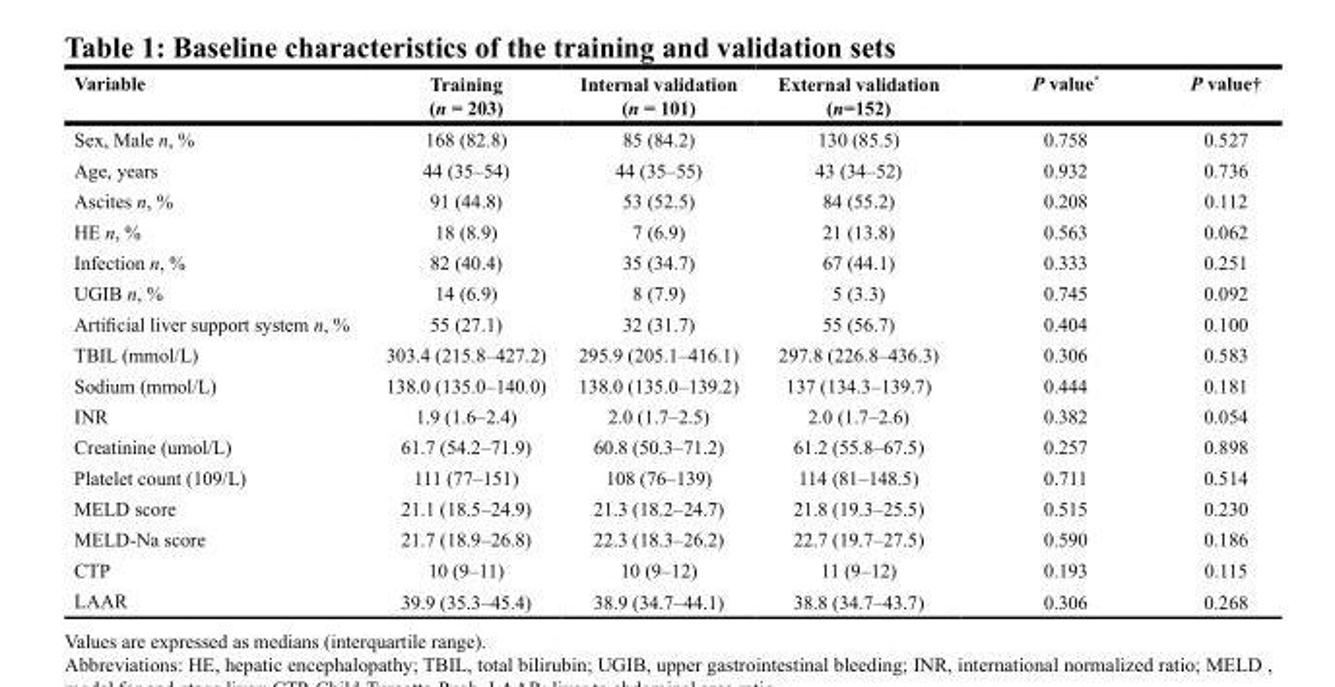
<table><thead><tr><td>Variable</td><td>Training (n = 203)</td><td>Internal validation (n = 101)</td><td>External validation (n=152)</td><td>P value*</td><td>P value†</td></tr></thead><tbody><tr><td>Sex, Male n, %</td><td>168 (82.8)</td><td>85 (84.2)</td><td>130 (85.5)</td><td>0.758</td><td>0.527</td></tr><tr><td>Age, years</td><td>44 (35–54)</td><td>44 (35–55)</td><td>43 (34–52)</td><td>0.932</td><td>0.736</td></tr><tr><td>Ascites n, %</td><td>91 (44.8)</td><td>53 (52.5)</td><td>84 (55.2)</td><td>0.208</td><td>0.112</td></tr><tr><td>HE n, %</td><td>18 (8.9)</td><td>7 (6.9)</td><td>21 (13.8)</td><td>0.563</td><td>0.062</td></tr><tr><td>Infection n, %</td><td>82 (40.4)</td><td>35 (34.7)</td><td>67 (44.1)</td><td>0.333</td><td>0.251</td></tr><tr><td>UGIB n, %</td><td>14 (6.9)</td><td>8 (7.9)</td><td>5 (3.3)</td><td>0.745</td><td>0.092</td></tr><tr><td>Artificial liver support system n, %</td><td>55 (27.1)</td><td>32 (31.7)</td><td>55 (56.7)</td><td>0.404</td><td>0.100</td></tr><tr><td>TBIL (mmol/L)</td><td>303.4 (215.8–427.2)</td><td>295.9 (205.1–416.1)</td><td>297.8 (226.8–436.3)</td><td>0.306</td><td>0.583</td></tr><tr><td>Sodium (mmol/L)</td><td>138.0 (135.0–140.0)</td><td>138.0 (135.0–139.2)</td><td>137 (134.3–139.7)</td><td>0.444</td><td>0.181</td></tr><tr><td>INR</td><td>1.9 (1.6–2.4)</td><td>2.0 (1.7–2.5)</td><td>2.0 (1.7–2.6)</td><td>0.382</td><td>0.054</td></tr><tr><td>Creatinine (umol/L)</td><td>61.7 (54.2–71.9)</td><td>60.8 (50.3–71.2)</td><td>61.2 (55.8–67.5)</td><td>0.257</td><td>0.898</td></tr><tr><td>Platelet count (109/L)</td><td>111 (77–151)</td><td>108 (76–139)</td><td>114 (81–148.5)</td><td>0.711</td><td>0.514</td></tr><tr><td>MELD score</td><td>21.1 (18.5–24.9)</td><td>21.3 (18.2–24.7)</td><td>21.8 (19.3–25.5)</td><td>0.515</td><td>0.230</td></tr><tr><td>MELD-Na score</td><td>21.7 (18.9–26.8)</td><td>22.3 (18.3–26.2)</td><td>22.7 (19.7–27.5)</td><td>0.590</td><td>0.186</td></tr><tr><td>CTP</td><td>10 (9–11)</td><td>10 (9–12)</td><td>11 (9–12)</td><td>0.193</td><td>0.115</td></tr><tr><td>LAAR</td><td>39.9 (35.3–45.4)</td><td>38.9 (34.7–44.1)</td><td>38.8 (34.7–43.7)</td><td>0.306</td><td>0.268</td></tr></tbody></table>